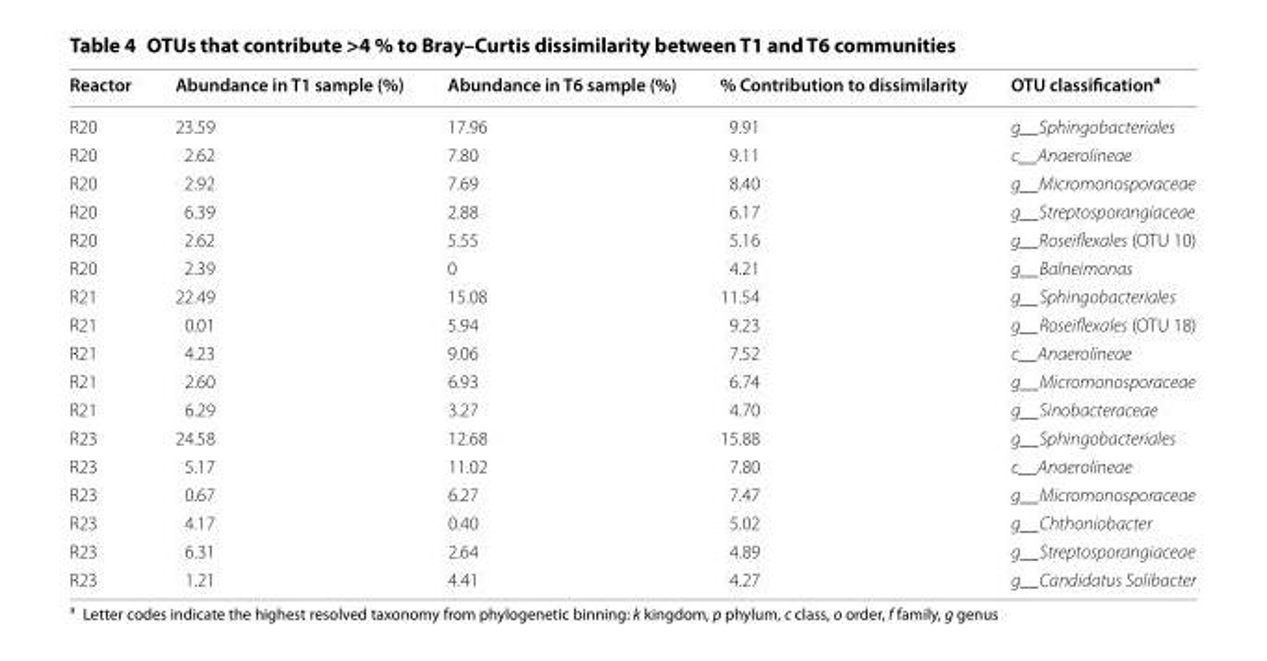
<table><thead><tr><td>Reactor</td><td>Abundance in T1 sample (%)</td><td>Abundance in T6 sample (%)</td><td>% Contribution to dissimilarity</td><td>OTU classification<sup>a</sup></td></tr></thead><tbody><tr><td>R20</td><td>23.59</td><td>17.96</td><td>9.91</td><td>g__Sphingobacteriales</td></tr><tr><td>R20</td><td>2.62</td><td>7.80</td><td>9.11</td><td>c__Anaerolineae</td></tr><tr><td>R20</td><td>2.92</td><td>7.69</td><td>8.40</td><td>g__Micromonosporaceae</td></tr><tr><td>R20</td><td>6.39</td><td>2.88</td><td>6.17</td><td>g__Streptosporangiaceae</td></tr><tr><td>R20</td><td>2.62</td><td>5.55</td><td>5.16</td><td>g__Roseiflexales (OTU 10)</td></tr><tr><td>R20</td><td>2.39</td><td>0</td><td>4.21</td><td>g__Balneimonas</td></tr><tr><td>R21</td><td>22.49</td><td>15.08</td><td>11.54</td><td>g__Sphingobacteriales</td></tr><tr><td>R21</td><td>0.01</td><td>5.94</td><td>9.23</td><td>g__Roseiflexales (OTU 18)</td></tr><tr><td>R21</td><td>4.23</td><td>9.06</td><td>7.52</td><td>c__Anaerolineae</td></tr><tr><td>R21</td><td>2.60</td><td>6.93</td><td>6.74</td><td>g__Micromonosporaceae</td></tr><tr><td>R21</td><td>6.29</td><td>3.27</td><td>4.70</td><td>g__Sinobacteraceae</td></tr><tr><td>R23</td><td>24.58</td><td>12.68</td><td>15.88</td><td>g__Sphingobacteriales</td></tr><tr><td>R23</td><td>5.17</td><td>11.02</td><td>7.80</td><td>c__Anaerolineae</td></tr><tr><td>R23</td><td>0.67</td><td>6.27</td><td>7.47</td><td>g__Micromonosporaceae</td></tr><tr><td>R23</td><td>4.17</td><td>0.40</td><td>5.02</td><td>g__Chthoniobacter</td></tr><tr><td>R23</td><td>6.31</td><td>2.64</td><td>4.89</td><td>g__Streptosporangiaceae</td></tr><tr><td>R23</td><td>1.21</td><td>4.41</td><td>4.27</td><td>g__Candidatus Solibacter</td></tr></tbody></table>